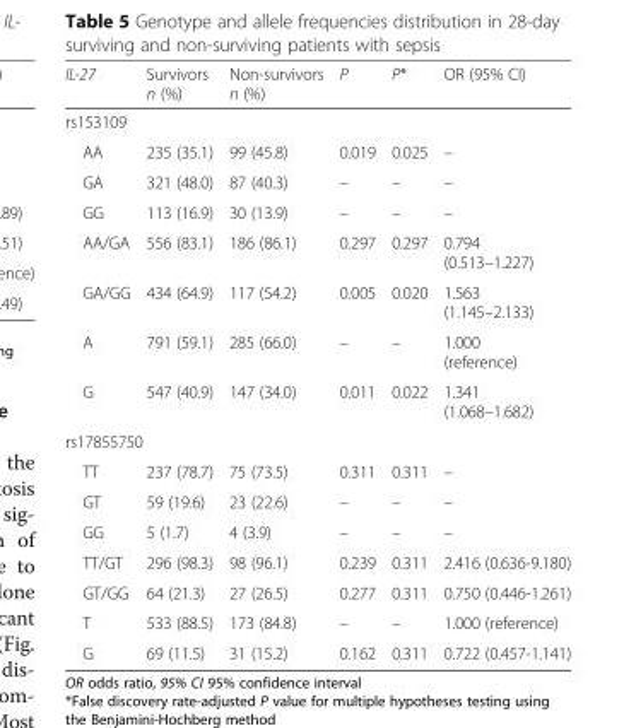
<table><thead><tr><td>IL-27</td><td>Survivors n (%)</td><td>Non-survivors n (%)</td><td>P</td><td>P*</td><td>OR (95% CI)</td></tr></thead><tbody><tr><td colspan="6">rs153109</td></tr><tr><td>AA</td><td>235 (35.1)</td><td>99 (45.8)</td><td>0.019</td><td>0.025</td><td>–</td></tr><tr><td>GA</td><td>321 (48.0)</td><td>87 (40.3)</td><td>–</td><td>–</td><td>–</td></tr><tr><td>GG</td><td>113 (16.9)</td><td>30 (13.9)</td><td>–</td><td>–</td><td>–</td></tr><tr><td>AA/GA</td><td>556 (83.1)</td><td>186 (86.1)</td><td>0.297</td><td>0.297</td><td>0.794 (0.513–1.227)</td></tr><tr><td>GA/GG</td><td>434 (64.9)</td><td>117 (54.2)</td><td>0.005</td><td>0.020</td><td>1.563 (1.145–2.133)</td></tr><tr><td>A</td><td>791 (59.1)</td><td>285 (66.0)</td><td>–</td><td>–</td><td>1.000 (reference)</td></tr><tr><td>G</td><td>547 (40.9)</td><td>147 (34.0)</td><td>0.011</td><td>0.022</td><td>1.341 (1.068–1.682)</td></tr><tr><td colspan="6">rs17855750</td></tr><tr><td>TT</td><td>237 (78.7)</td><td>75 (73.5)</td><td>0.311</td><td>0.311</td><td>–</td></tr><tr><td>GT</td><td>59 (19.6)</td><td>23 (22.6)</td><td>–</td><td>–</td><td>–</td></tr><tr><td>GG</td><td>5 (1.7)</td><td>4 (3.9)</td><td>–</td><td>–</td><td>–</td></tr><tr><td>TT/GT</td><td>296 (98.3)</td><td>98 (96.1)</td><td>0.239</td><td>0.311</td><td>2.416 (0.636-9.180)</td></tr><tr><td>GT/GG</td><td>64 (21.3)</td><td>27 (26.5)</td><td>0.277</td><td>0.311</td><td>0.750 (0.446-1.261)</td></tr><tr><td>T</td><td>533 (88.5)</td><td>173 (84.8)</td><td>–</td><td>–</td><td>1.000 (reference)</td></tr><tr><td>G</td><td>69 (11.5)</td><td>31 (15.2)</td><td>0.162</td><td>0.311</td><td>0.722 (0.457-1.141)</td></tr></tbody></table>